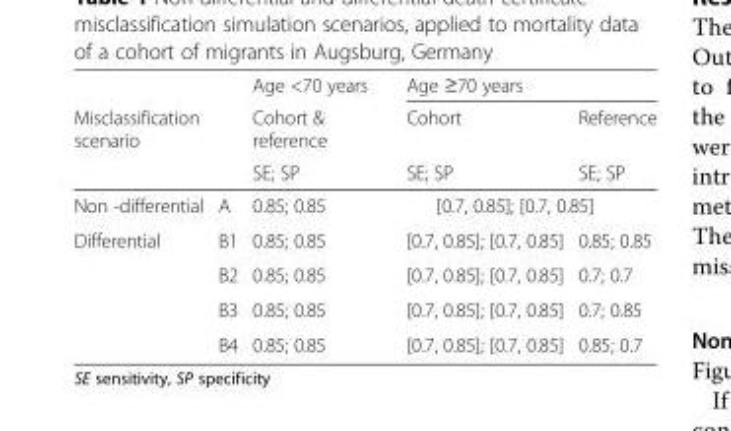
<table><thead><tr><td></td><td></td><td rowspan="3">Age &lt;70 years Cohort &amp; reference SE; SP</td><td colspan="2">Age ≥70 years</td></tr><tr><td rowspan="2" colspan="2">Misclassification scenario</td><td rowspan="2">Cohort SE; SP</td><td rowspan="2">Reference SE; SP</td></tr><tr></tr></thead><tbody><tr><td>Non -differential</td><td>A</td><td>0.85; 0.85</td><td colspan="2">[0.7, 0.85]; [0.7, 0.85]</td></tr><tr><td rowspan="4">Differential</td><td>B1</td><td>0.85; 0.85</td><td>[0.7, 0.85]; [0.7, 0.85]</td><td>0.85; 0.85</td></tr><tr><td>B2</td><td>0.85; 0.85</td><td>[0.7, 0.85]; [0.7, 0.85]</td><td>0.7; 0.7</td></tr><tr><td>B3</td><td>0.85; 0.85</td><td>[0.7, 0.85]; [0.7, 0.85]</td><td>0.7; 0.85</td></tr><tr><td>B4</td><td>0.85; 0.85</td><td>[0.7, 0.85]; [0.7, 0.85]</td><td>0.85; 0.7</td></tr></tbody></table>